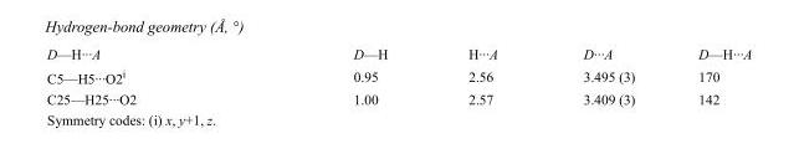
<table><tbody><tr><td>D—H···A</td><td>D—H</td><td>H···A</td><td>D···A</td><td>D—H···A</td></tr><tr><td>C5—H5···O2<sup>i</sup></td><td>0.95</td><td>2.56</td><td>3.495 (3)</td><td>170</td></tr><tr><td>C25—H25···O2</td><td>1.00</td><td>2.57</td><td>3.409 (3)</td><td>142</td></tr></tbody></table>